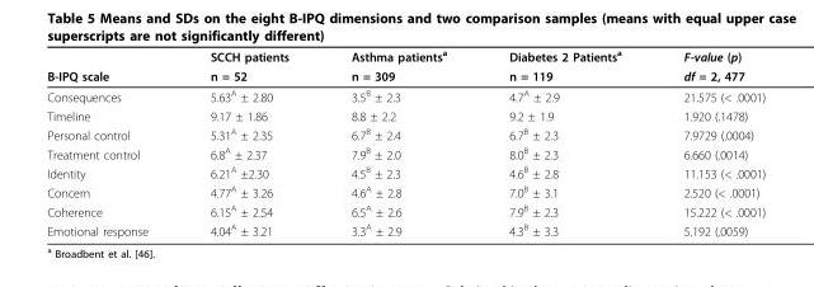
<table><thead><tr><td rowspan="2">B-IPQ scale</td><td rowspan="2">SCCH patients n = 52</td><td rowspan="2">Asthma patients<sup>a</sup> n = 309</td><td rowspan="2">Diabetes 2 Patients<sup>a</sup> n = 119</td><td rowspan="2">F-value (p) df = 2, 477</td></tr><tr></tr></thead><tbody><tr><td>Consequences</td><td>5.63<sup>A</sup> ± 2.80</td><td>3.5<sup>B</sup> ± 2.3</td><td>4.7<sup>A</sup> ± 2.9</td><td>21.575 (&lt; .0001)</td></tr><tr><td>Timeline</td><td>9.17 ± 1.86</td><td>8.8 ± 2.2</td><td>9.2 ± 1.9</td><td>1.920 (.1478)</td></tr><tr><td>Personal control</td><td>5.31<sup>A</sup> ± 2.35</td><td>6.7<sup>B</sup> ± 2.4</td><td>6.7<sup>B</sup> ± 2.3</td><td>7.9729 (.0004)</td></tr><tr><td>Treatment control</td><td>6.8<sup>A</sup> ± 2.37</td><td>7.9<sup>B</sup> ± 2.0</td><td>8.0<sup>B</sup> ± 2.3</td><td>6.660 (.0014)</td></tr><tr><td>Identity</td><td>6.21<sup>A</sup> ±2.30</td><td>4.5<sup>B</sup> ± 2.3</td><td>4.6<sup>B</sup> ± 2.8</td><td>11.153 (&lt; .0001)</td></tr><tr><td>Concern</td><td>4.77<sup>A</sup> ± 3.26</td><td>4.6<sup>A</sup> ± 2.8</td><td>7.0<sup>B</sup> ± 3.1</td><td>2.520 (&lt; .0001)</td></tr><tr><td>Coherence</td><td>6.15<sup>A</sup> ± 2.54</td><td>6.5<sup>A</sup> ± 2.6</td><td>7.9<sup>B</sup> ± 2.3</td><td>15.222 (&lt; .0001)</td></tr><tr><td>Emotional response</td><td>4.04<sup>A</sup> ± 3.21</td><td>3.3<sup>A</sup> ± 2.9</td><td>4.3<sup>B</sup> ± 3.3</td><td>5.192 (.0059)</td></tr></tbody></table>